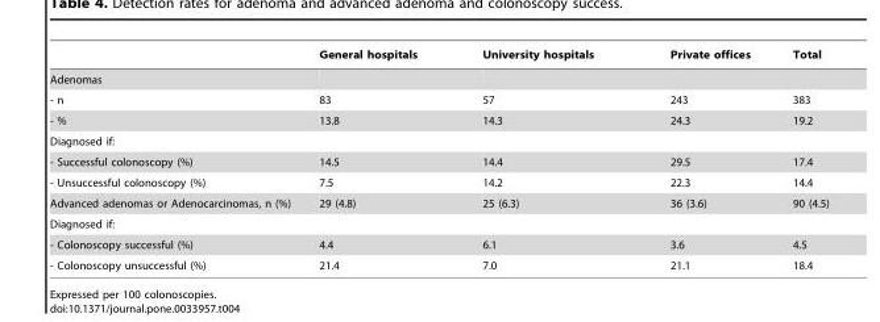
<table><thead><tr><td></td><td>General hospitals</td><td>University hospitals</td><td>Private offices</td><td>Total</td></tr></thead><tbody><tr><td colspan="5">Adenomas</td></tr><tr><td>- n</td><td>83</td><td>57</td><td>243</td><td>383</td></tr><tr><td>- %</td><td>13.8</td><td>14.3</td><td>24.3</td><td>19.2</td></tr><tr><td colspan="5">Diagnosed if:</td></tr><tr><td>- Successful colonoscopy (%)</td><td>14.5</td><td>14.4</td><td>29.5</td><td>17.4</td></tr><tr><td>- Unsuccessful colonoscopy (%)</td><td>7.5</td><td>14.2</td><td>22.3</td><td>14.4</td></tr><tr><td>Advanced adenomas or Adenocarcinomas, n (%)</td><td>29 (4.8)</td><td>25 (6.3)</td><td>36 (3.6)</td><td>90 (4.5)</td></tr><tr><td colspan="5">Diagnosed if:</td></tr><tr><td>- Colonoscopy successful (%)</td><td>4.4</td><td>6.1</td><td>3.6</td><td>4.5</td></tr><tr><td>- Colonoscopy unsuccessful (%)</td><td>21.4</td><td>7.0</td><td>21.1</td><td>18.4</td></tr></tbody></table>